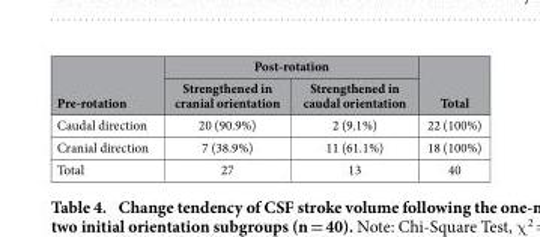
<table><thead><tr><td rowspan="2">Pre-rotation</td><td colspan="2">Post-rotation</td><td rowspan="2">Total</td></tr><tr><td>Strengthened in cranial orientation</td><td>Strengthened in caudal orientation</td></tr></thead><tbody><tr><td>Caudal direction</td><td>20 (90.9%)</td><td>2 (9.1%)</td><td>22 (100%)</td></tr><tr><td>Cranial direction</td><td>7 (38.9%)</td><td>11 (61.1%)</td><td>18 (100%)</td></tr><tr><td>Total</td><td>27</td><td>13</td><td>40</td></tr></tbody></table>